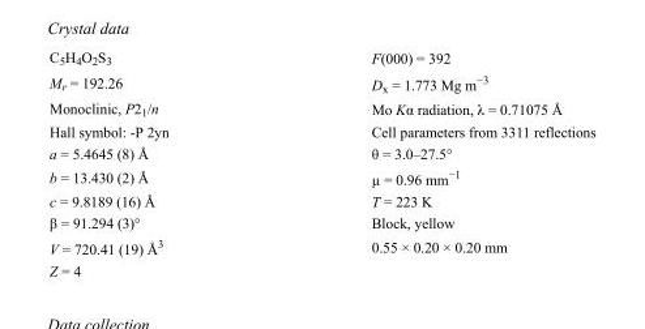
<table><tbody><tr><td>C<sub>5</sub>H<sub>4</sub>O<sub>2</sub>S<sub>3</sub></td><td>F(000) = 392</td></tr><tr><td>M<sub>r</sub> = 192.26</td><td>D<sub>x</sub> = 1.773 Mg m<sup>−3</sup></td></tr><tr><td>Monoclinic, P2<sub>1</sub>/n</td><td>Mo Kα radiation, λ = 0.71075 Å</td></tr><tr><td>Hall symbol: -P 2yn</td><td>Cell parameters from 3311 reflections</td></tr><tr><td>a = 5.4645 (8) Å</td><td>θ = 3.0–27.5°</td></tr><tr><td>b = 13.430 (2) Å</td><td>µ = 0.96 mm<sup>−1</sup></td></tr><tr><td>c = 9.8189 (16) Å</td><td>T = 223 K</td></tr><tr><td>β = 91.294 (3)°</td><td>Block, yellow</td></tr><tr><td>V = 720.41 (19) Å<sup>3</sup></td><td>0.55 × 0.20 × 0.20 mm</td></tr><tr><td>Z = 4</td><td></td></tr></tbody></table>